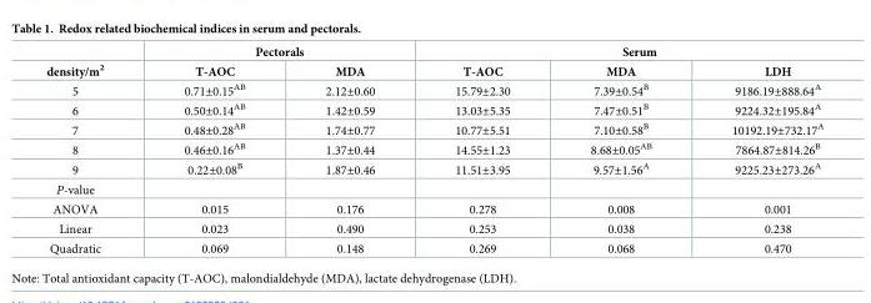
<table><thead><tr><td rowspan="2">density/m<sup>2</sup></td><td colspan="2">Pectorals</td><td colspan="3">Serum</td></tr><tr><td>T-AOC</td><td>MDA</td><td>T-AOC</td><td>MDA</td><td>LDH</td></tr></thead><tbody><tr><td>5</td><td>0.71±0.15<sup>AB</sup></td><td>2.12±0.60</td><td>15.79±2.30</td><td>7.39±0.54<sup>B</sup></td><td>9186.19±888.64<sup>A</sup></td></tr><tr><td>6</td><td>0.50±0.14<sup>AB</sup></td><td>1.42±0.59</td><td>13.03±5.35</td><td>7.47±0.51<sup>B</sup></td><td>9224.32±195.84<sup>A</sup></td></tr><tr><td>7</td><td>0.48±0.28<sup>AB</sup></td><td>1.74±0.77</td><td>10.77±5.51</td><td>7.10±0.58<sup>B</sup></td><td>10192.19±732.17<sup>A</sup></td></tr><tr><td>8</td><td>0.46±0.16<sup>AB</sup></td><td>1.37±0.44</td><td>14.55±1.23</td><td>8.68±0.05<sup>AB</sup></td><td>7864.87±814.26<sup>B</sup></td></tr><tr><td>9</td><td>0.22±0.08<sup>B</sup></td><td>1.87±0.46</td><td>11.51±3.95</td><td>9.57±1.56<sup>A</sup></td><td>9225.23±273.26<sup>A</sup></td></tr><tr><td colspan="6">P-value</td></tr><tr><td>ANOVA</td><td>0.015</td><td>0.176</td><td>0.278</td><td>0.008</td><td>0.001</td></tr><tr><td>Linear</td><td>0.023</td><td>0.490</td><td>0.253</td><td>0.038</td><td>0.238</td></tr><tr><td>Quadratic</td><td>0.069</td><td>0.148</td><td>0.269</td><td>0.068</td><td>0.470</td></tr></tbody></table>